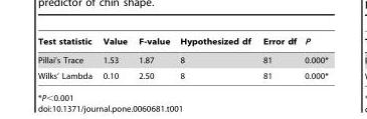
<table><thead><tr><td>Test statistic</td><td>Value</td><td>F-value</td><td>Hypothesized df</td><td>Error df</td><td>P</td></tr></thead><tbody><tr><td>Pillai’s Trace</td><td>1.53</td><td>1.87</td><td>8</td><td>81</td><td>0.000*</td></tr><tr><td>Wilks’ Lambda</td><td>0.10</td><td>2.50</td><td>8</td><td>81</td><td>0.000*</td></tr></tbody></table>